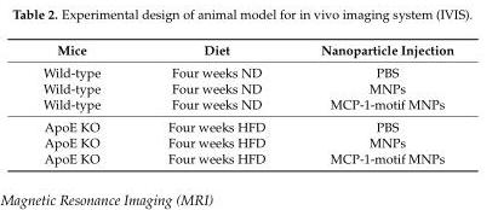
<table><thead><tr><td>Mice</td><td>Diet</td><td>Nanoparticle Injection</td></tr></thead><tbody><tr><td>Wild-type</td><td>Four weeks ND</td><td>PBS</td></tr><tr><td>Wild-type</td><td>Four weeks ND</td><td>MNPs</td></tr><tr><td>Wild-type</td><td>Four weeks ND</td><td>MCP-1-motif MNPs</td></tr><tr><td>ApoE KO</td><td>Four weeks HFD</td><td>PBS</td></tr><tr><td>ApoE KO</td><td>Four weeks HFD</td><td>MNPs</td></tr><tr><td>ApoE KO</td><td>Four weeks HFD</td><td>MCP-1-motif MNPs</td></tr></tbody></table>